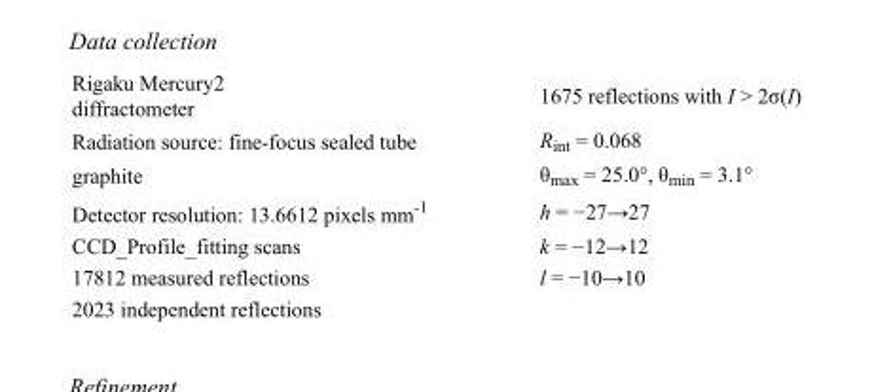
<table><tbody><tr><td>Rigaku Mercury2 diffractometer</td><td>1675 reflections with I &gt; 2σ(I)</td></tr><tr><td>Radiation source: fine-focus sealed tube</td><td>R<sub>int</sub> = 0.068</td></tr><tr><td>graphite</td><td>θ<sub>max</sub> = 25.0°, θ<sub>min</sub> = 3.1°</td></tr><tr><td>Detector resolution: 13.6612 pixels mm<sup>-1</sup></td><td>h = −27→27</td></tr><tr><td>CCD_Profile_fitting scans</td><td>k = −12→12</td></tr><tr><td>17812 measured reflections</td><td>l = −10→10</td></tr><tr><td>2023 independent reflections</td><td></td></tr></tbody></table>